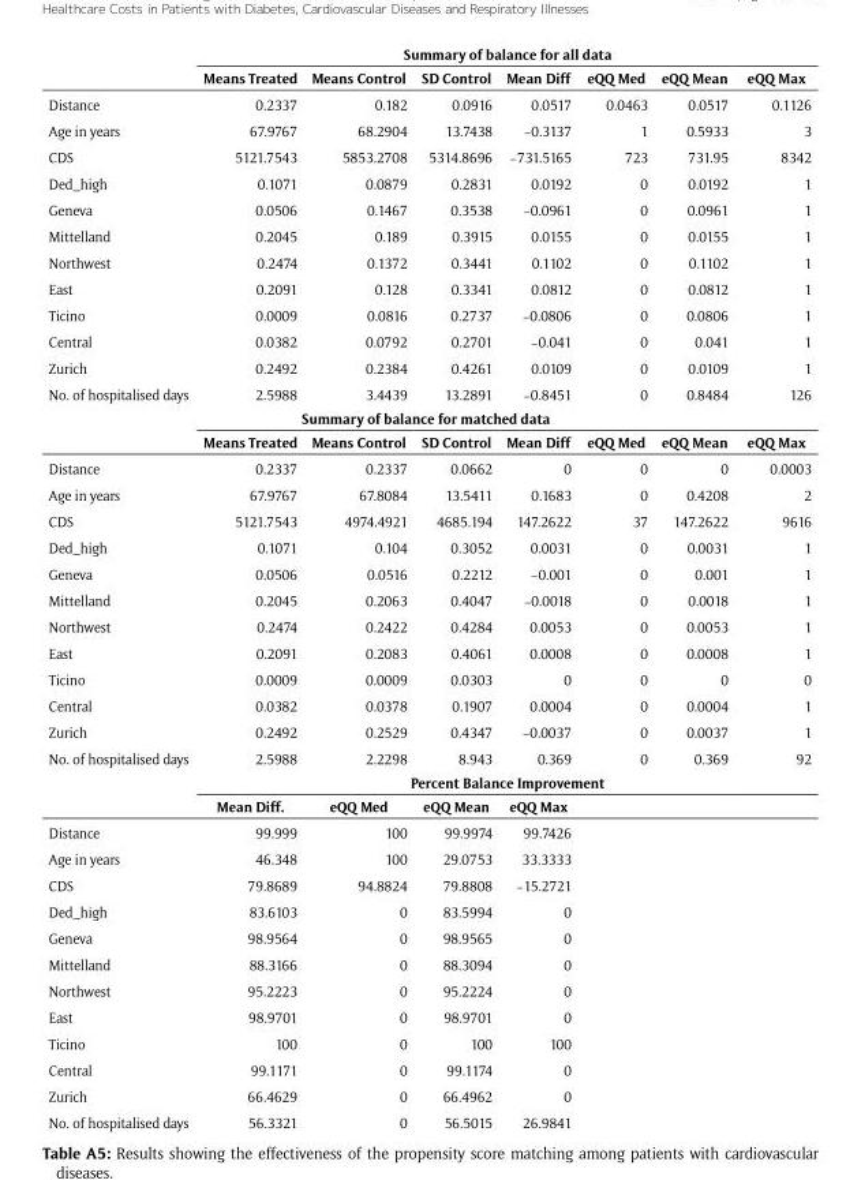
<table><thead><tr><td rowspan="2"></td><td colspan="7">Summary of balance for all data</td></tr><tr><td>Means Treated</td><td>Means Control</td><td>SD Control</td><td>Mean Diff</td><td>eQQ Med</td><td>eQQ Mean</td><td>eQQ Max</td></tr></thead><tbody><tr><td>Distance</td><td>0.2337</td><td>0.182</td><td>0.0916</td><td>0.0517</td><td>0.0463</td><td>0.0517</td><td>0.1126</td></tr><tr><td>Age in years</td><td>67.9767</td><td>68.2904</td><td>13.7438</td><td>−0.3137</td><td>1</td><td>0.5933</td><td>3</td></tr><tr><td>CDS</td><td>5121.7543</td><td>5853.2708</td><td>5314.8696</td><td>−731.5165</td><td>723</td><td>731.95</td><td>8342</td></tr><tr><td>Ded_high</td><td>0.1071</td><td>0.0879</td><td>0.2831</td><td>0.0192</td><td>0</td><td>0.0192</td><td>1</td></tr><tr><td>Geneva</td><td>0.0506</td><td>0.1467</td><td>0.3538</td><td>−0.0961</td><td>0</td><td>0.0961</td><td>1</td></tr><tr><td>Mittelland</td><td>0.2045</td><td>0.189</td><td>0.3915</td><td>0.0155</td><td>0</td><td>0.0155</td><td>1</td></tr><tr><td>Northwest</td><td>0.2474</td><td>0.1372</td><td>0.3441</td><td>0.1102</td><td>0</td><td>0.1102</td><td>1</td></tr><tr><td>East</td><td>0.2091</td><td>0.128</td><td>0.3341</td><td>0.0812</td><td>0</td><td>0.0812</td><td>1</td></tr><tr><td>Ticino</td><td>0.0009</td><td>0.0816</td><td>0.2737</td><td>−0.0806</td><td>0</td><td>0.0806</td><td>1</td></tr><tr><td>Central</td><td>0.0382</td><td>0.0792</td><td>0.2701</td><td>−0.041</td><td>0</td><td>0.041</td><td>1</td></tr><tr><td>Zurich</td><td>0.2492</td><td>0.2384</td><td>0.4261</td><td>0.0109</td><td>0</td><td>0.0109</td><td>1</td></tr><tr><td rowspan="3">No. of hospitalised days</td><td>2.5988</td><td>3.4439</td><td>13.2891</td><td>−0.8451</td><td>0</td><td>0.8484</td><td>126</td></tr><tr><td colspan="7">Summary of balance for matched data</td></tr><tr><td>Means Treated</td><td>Means Control</td><td>SD Control</td><td>Mean Diff</td><td>eQQ Med</td><td>eQQ Mean</td><td>eQQ Max</td></tr><tr><td>Distance</td><td>0.2337</td><td>0.2337</td><td>0.0662</td><td>0</td><td>0</td><td>0</td><td>0.0003</td></tr><tr><td>Age in years</td><td>67.9767</td><td>67.8084</td><td>13.5411</td><td>0.1683</td><td>0</td><td>0.4208</td><td>2</td></tr><tr><td>CDS</td><td>5121.7543</td><td>4974.4921</td><td>4685.194</td><td>147.2622</td><td>37</td><td>147.2622</td><td>9616</td></tr><tr><td>Ded_high</td><td>0.1071</td><td>0.104</td><td>0.3052</td><td>0.0031</td><td>0</td><td>0.0031</td><td>1</td></tr><tr><td>Geneva</td><td>0.0506</td><td>0.0516</td><td>0.2212</td><td>−0.001</td><td>0</td><td>0.001</td><td>1</td></tr><tr><td>Mittelland</td><td>0.2045</td><td>0.2063</td><td>0.4047</td><td>−0.0018</td><td>0</td><td>0.0018</td><td>1</td></tr><tr><td>Northwest</td><td>0.2474</td><td>0.2422</td><td>0.4284</td><td>0.0053</td><td>0</td><td>0.0053</td><td>1</td></tr><tr><td>East</td><td>0.2091</td><td>0.2083</td><td>0.4061</td><td>0.0008</td><td>0</td><td>0.0008</td><td>1</td></tr><tr><td>Ticino</td><td>0.0009</td><td>0.0009</td><td>0.0303</td><td>0</td><td>0</td><td>0</td><td>0</td></tr><tr><td>Central</td><td>0.0382</td><td>0.0378</td><td>0.1907</td><td>0.0004</td><td>0</td><td>0.0004</td><td>1</td></tr><tr><td>Zurich</td><td>0.2492</td><td>0.2529</td><td>0.4347</td><td>−0.0037</td><td>0</td><td>0.0037</td><td>1</td></tr><tr><td rowspan="3">No. of hospitalised days</td><td>2.5988</td><td>2.2298</td><td>8.943</td><td>0.369</td><td>0</td><td>0.369</td><td>92</td></tr><tr><td colspan="7">Percent Balance Improvement</td></tr><tr><td>Mean Diff.</td><td>eQQ Med</td><td>eQQ Mean</td><td>eQQ Max</td><td></td><td></td><td></td></tr><tr><td>Distance</td><td>99.999</td><td>100</td><td>99.9974</td><td>99.7426</td><td></td><td></td><td></td></tr><tr><td>Age in years</td><td>46.348</td><td>100</td><td>29.0753</td><td>33.3333</td><td></td><td></td><td></td></tr><tr><td>CDS</td><td>79.8689</td><td>94.8824</td><td>79.8808</td><td>−15.2721</td><td></td><td></td><td></td></tr><tr><td>Ded_high</td><td>83.6103</td><td>0</td><td>83.5994</td><td>0</td><td></td><td></td><td></td></tr><tr><td>Geneva</td><td>98.9564</td><td>0</td><td>98.9565</td><td>0</td><td></td><td></td><td></td></tr><tr><td>Mittelland</td><td>88.3166</td><td>0</td><td>88.3094</td><td>0</td><td></td><td></td><td></td></tr><tr><td>Northwest</td><td>95.2223</td><td>0</td><td>95.2224</td><td>0</td><td></td><td></td><td></td></tr><tr><td>East</td><td>98.9701</td><td>0</td><td>98.9701</td><td>0</td><td></td><td></td><td></td></tr><tr><td>Ticino</td><td>100</td><td>0</td><td>100</td><td>100</td><td></td><td></td><td></td></tr><tr><td>Central</td><td>99.1171</td><td>0</td><td>99.1174</td><td>0</td><td></td><td></td><td></td></tr><tr><td>Zurich</td><td>66.4629</td><td>0</td><td>66.4962</td><td>0</td><td></td><td></td><td></td></tr><tr><td>No. of hospitalised days</td><td>56.3321</td><td>0</td><td>56.5015</td><td>26.9841</td><td></td><td></td><td></td></tr></tbody></table>